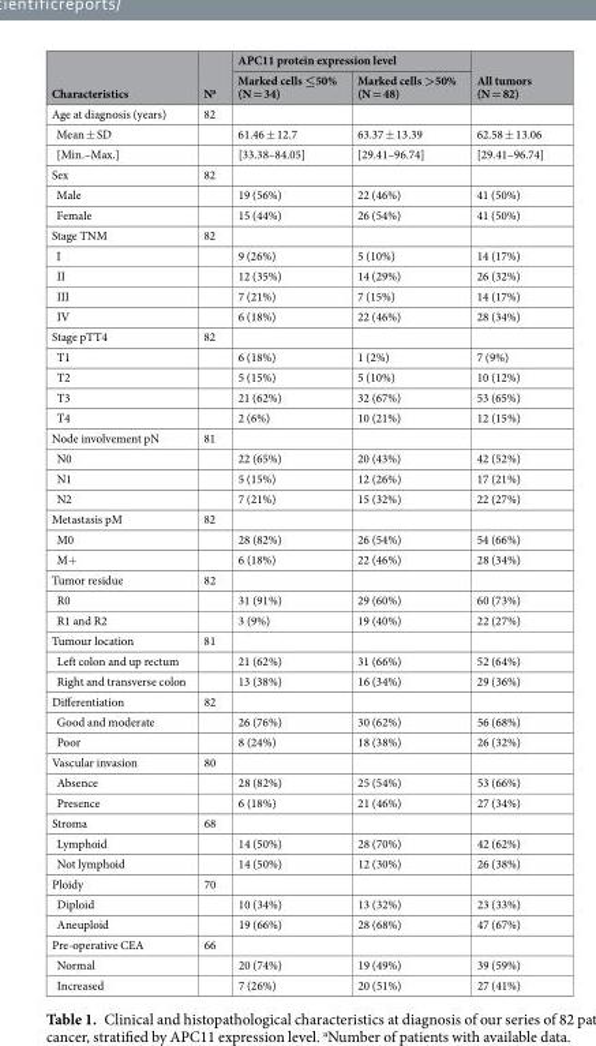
<table><thead><tr><td rowspan="2">Characteristics</td><td rowspan="2">N<sup>a</sup></td><td colspan="2">APC11 protein expression level</td><td rowspan="2">All tumors (N = 82)</td></tr><tr><td>Marked cells ≤50% (N = 34)</td><td>Marked cells &gt;50% (N = 48)</td></tr></thead><tbody><tr><td>Age at diagnosis (years)</td><td>82</td><td></td><td></td><td></td></tr><tr><td>Mean ± SD</td><td></td><td>61.46 ± 12.7</td><td>63.37 ± 13.39</td><td>62.58 ± 13.06</td></tr><tr><td>[Min.–Max.]</td><td></td><td>[33.38–84.05]</td><td>[29.41–96.74]</td><td>[29.41–96.74]</td></tr><tr><td>Sex</td><td>82</td><td></td><td></td><td></td></tr><tr><td>Male</td><td></td><td>19 (56%)</td><td>22 (46%)</td><td>41 (50%)</td></tr><tr><td>Female</td><td></td><td>15 (44%)</td><td>26 (54%)</td><td>41 (50%)</td></tr><tr><td>Stage TNM</td><td>82</td><td></td><td></td><td></td></tr><tr><td>I</td><td></td><td>9 (26%)</td><td>5 (10%)</td><td>14 (17%)</td></tr><tr><td>II</td><td></td><td>12 (35%)</td><td>14 (29%)</td><td>26 (32%)</td></tr><tr><td>III</td><td></td><td>7 (21%)</td><td>7 (15%)</td><td>14 (17%)</td></tr><tr><td>IV</td><td></td><td>6 (18%)</td><td>22 (46%)</td><td>28 (34%)</td></tr><tr><td>Stage pTT4</td><td>82</td><td></td><td></td><td></td></tr><tr><td>T1</td><td></td><td>6 (18%)</td><td>1 (2%)</td><td>7 (9%)</td></tr><tr><td>T2</td><td></td><td>5 (15%)</td><td>5 (10%)</td><td>10 (12%)</td></tr><tr><td>T3</td><td></td><td>21 (62%)</td><td>32 (67%)</td><td>53 (65%)</td></tr><tr><td>T4</td><td></td><td>2 (6%)</td><td>10 (21%)</td><td>12 (15%)</td></tr><tr><td>Node involvement pN</td><td>81</td><td></td><td></td><td></td></tr><tr><td>N0</td><td></td><td>22 (65%)</td><td>20 (43%)</td><td>42 (52%)</td></tr><tr><td>N1</td><td></td><td>5 (15%)</td><td>12 (26%)</td><td>17 (21%)</td></tr><tr><td>N2</td><td></td><td>7 (21%)</td><td>15 (32%)</td><td>22 (27%)</td></tr><tr><td>Metastasis pM</td><td>82</td><td></td><td></td><td></td></tr><tr><td>M0</td><td></td><td>28 (82%)</td><td>26 (54%)</td><td>54 (66%)</td></tr><tr><td>M+</td><td></td><td>6 (18%)</td><td>22 (46%)</td><td>28 (34%)</td></tr><tr><td>Tumor residue</td><td>82</td><td></td><td></td><td></td></tr><tr><td>R0</td><td></td><td>31 (91%)</td><td>29 (60%)</td><td>60 (73%)</td></tr><tr><td>R1 and R2</td><td></td><td>3 (9%)</td><td>19 (40%)</td><td>22 (27%)</td></tr><tr><td>Tumour location</td><td>81</td><td></td><td></td><td></td></tr><tr><td>Left colon and up rectum</td><td></td><td>21 (62%)</td><td>31 (66%)</td><td>52 (64%)</td></tr><tr><td>Right and transverse colon</td><td></td><td>13 (38%)</td><td>16 (34%)</td><td>29 (36%)</td></tr><tr><td>Differentiation</td><td>82</td><td></td><td></td><td></td></tr><tr><td>Good and moderate</td><td></td><td>26 (76%)</td><td>30 (62%)</td><td>56 (68%)</td></tr><tr><td>Poor</td><td></td><td>8 (24%)</td><td>18 (38%)</td><td>26 (32%)</td></tr><tr><td>Vascular invasion</td><td>80</td><td></td><td></td><td></td></tr><tr><td>Absence</td><td></td><td>28 (82%)</td><td>25 (54%)</td><td>53 (66%)</td></tr><tr><td>Presence</td><td></td><td>6 (18%)</td><td>21 (46%)</td><td>27 (34%)</td></tr><tr><td>Stroma</td><td>68</td><td></td><td></td><td></td></tr><tr><td>Lymphoid</td><td></td><td>14 (50%)</td><td>28 (70%)</td><td>42 (62%)</td></tr><tr><td>Not lymphoid</td><td></td><td>14 (50%)</td><td>12 (30%)</td><td>26 (38%)</td></tr><tr><td>Ploidy</td><td>70</td><td></td><td></td><td></td></tr><tr><td>Diploid</td><td></td><td>10 (34%)</td><td>13 (32%)</td><td>23 (33%)</td></tr><tr><td>Aneuploid</td><td></td><td>19 (66%)</td><td>28 (68%)</td><td>47 (67%)</td></tr><tr><td>Pre-operative CEA</td><td>66</td><td></td><td></td><td></td></tr><tr><td>Normal</td><td></td><td>20 (74%)</td><td>19 (49%)</td><td>39 (59%)</td></tr><tr><td>Increased</td><td></td><td>7 (26%)</td><td>20 (51%)</td><td>27 (41%)</td></tr></tbody></table>